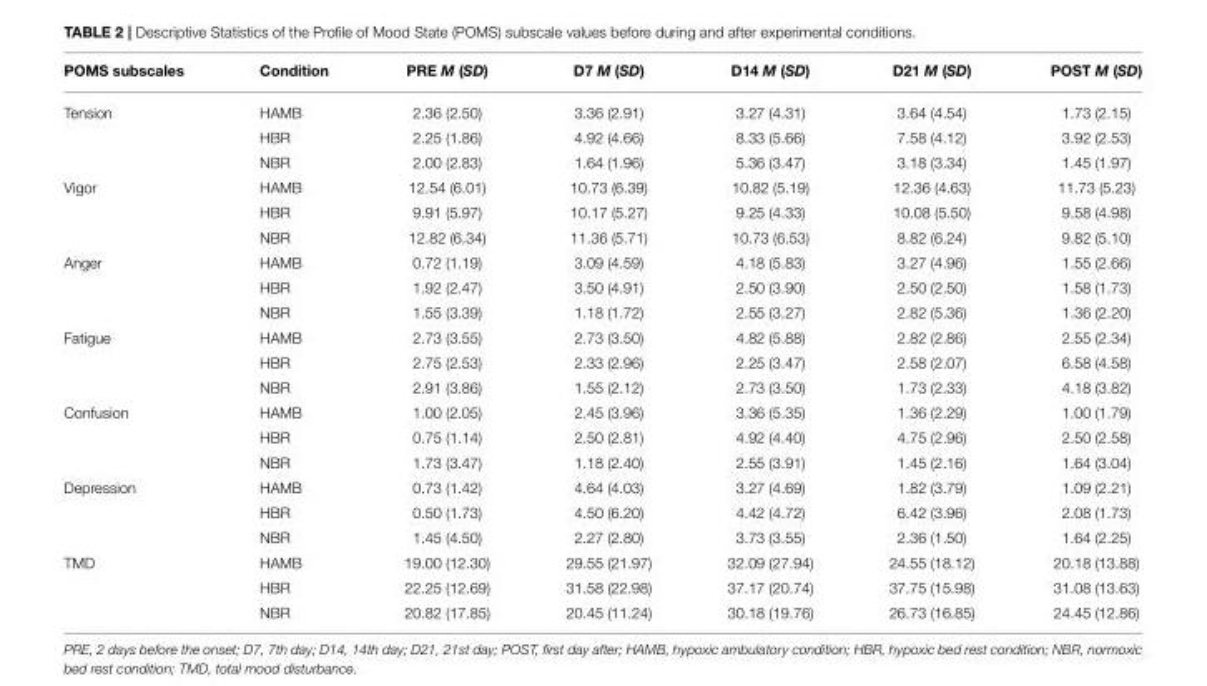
<table><thead><tr><td>POMS subscales</td><td>Condition</td><td>PRE M (SD)</td><td>D7 M (SD)</td><td>D14 M (SD)</td><td>D21 M (SD)</td><td>POST M (SD)</td></tr></thead><tbody><tr><td rowspan="3">Tension</td><td>HAMB</td><td>2.36 (2.50)</td><td>3.36 (2.91)</td><td>3.27 (4.31)</td><td>3.64 (4.54)</td><td>1.73 (2.15)</td></tr><tr><td>HBR</td><td>2.25 (1.86)</td><td>4.92 (4.66)</td><td>8.33 (5.66)</td><td>7.58 (4.12)</td><td>3.92 (2.53)</td></tr><tr><td>NBR</td><td>2.00 (2.83)</td><td>1.64 (1.96)</td><td>5.36 (3.47)</td><td>3.18 (3.34)</td><td>1.45 (1.97)</td></tr><tr><td rowspan="3">Vigor</td><td>HAMB</td><td>12.54 (6.01)</td><td>10.73 (6.39)</td><td>10.82 (5.19)</td><td>12.36 (4.63)</td><td>11.73 (5.23)</td></tr><tr><td>HBR</td><td>9.91 (5.97)</td><td>10.17 (5.27)</td><td>9.25 (4.33)</td><td>10.08 (5.50)</td><td>9.58 (4.98)</td></tr><tr><td>NBR</td><td>12.82 (6.34)</td><td>11.36 (5.71)</td><td>10.73 (6.53)</td><td>8.82 (6.24)</td><td>9.82 (5.10)</td></tr><tr><td rowspan="3">Anger</td><td>HAMB</td><td>0.72 (1.19)</td><td>3.09 (4.59)</td><td>4.18 (5.83)</td><td>3.27 (4.96)</td><td>1.55 (2.66)</td></tr><tr><td>HBR</td><td>1.92 (2.47)</td><td>3.50 (4.91)</td><td>2.50 (3.90)</td><td>2.50 (2.50)</td><td>1.58 (1.73)</td></tr><tr><td>NBR</td><td>1.55 (3.39)</td><td>1.18 (1.72)</td><td>2.55 (3.27)</td><td>2.82 (5.36)</td><td>1.36 (2.20)</td></tr><tr><td rowspan="3">Fatigue</td><td>HAMB</td><td>2.73 (3.55)</td><td>2.73 (3.50)</td><td>4.82 (5.88)</td><td>2.82 (2.86)</td><td>2.55 (2.34)</td></tr><tr><td>HBR</td><td>2.75 (2.53)</td><td>2.33 (2.96)</td><td>2.25 (3.47)</td><td>2.58 (2.07)</td><td>6.58 (4.58)</td></tr><tr><td>NBR</td><td>2.91 (3.86)</td><td>1.55 (2.12)</td><td>2.73 (3.50)</td><td>1.73 (2.33)</td><td>4.18 (3.82)</td></tr><tr><td rowspan="3">Confusion</td><td>HAMB</td><td>1.00 (2.05)</td><td>2.45 (3.96)</td><td>3.36 (5.35)</td><td>1.36 (2.29)</td><td>1.00 (1.79)</td></tr><tr><td>HBR</td><td>0.75 (1.14)</td><td>2.50 (2.81)</td><td>4.92 (4.40)</td><td>4.75 (2.96)</td><td>2.50 (2.58)</td></tr><tr><td>NBR</td><td>1.73 (3.47)</td><td>1.18 (2.40)</td><td>2.55 (3.91)</td><td>1.45 (2.16)</td><td>1.64 (3.04)</td></tr><tr><td rowspan="3">Depression</td><td>HAMB</td><td>0.73 (1.42)</td><td>4.64 (4.03)</td><td>3.27 (4.69)</td><td>1.82 (3.79)</td><td>1.09 (2.21)</td></tr><tr><td>HBR</td><td>0.50 (1.73)</td><td>4.50 (6.20)</td><td>4.42 (4.72)</td><td>6.42 (3.96)</td><td>2.08 (1.73)</td></tr><tr><td>NBR</td><td>1.45 (4.50)</td><td>2.27 (2.80)</td><td>3.73 (3.55)</td><td>2.36 (1.50)</td><td>1.64 (2.25)</td></tr><tr><td rowspan="3">TMD</td><td>HAMB</td><td>19.00 (12.30)</td><td>29.55 (21.97)</td><td>32.09 (27.94)</td><td>24.55 (18.12)</td><td>20.18 (13.88)</td></tr><tr><td>HBR</td><td>22.25 (12.69)</td><td>31.58 (22.98)</td><td>37.17 (20.74)</td><td>37.75 (15.98)</td><td>31.08 (13.63)</td></tr><tr><td>NBR</td><td>20.82 (17.85)</td><td>20.45 (11.24)</td><td>30.18 (19.76)</td><td>26.73 (16.85)</td><td>24.45 (12.86)</td></tr></tbody></table>